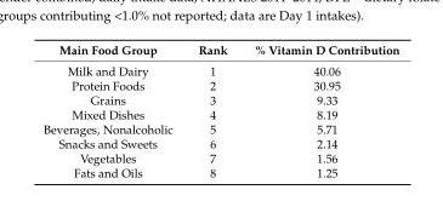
<table><thead><tr><td>Main Food Group</td><td>Rank</td><td>% Vitamin D Contribution</td></tr></thead><tbody><tr><td>Milk and Dairy</td><td>1</td><td>40.06</td></tr><tr><td>Protein Foods</td><td>2</td><td>30.95</td></tr><tr><td>Grains</td><td>3</td><td>9.33</td></tr><tr><td>Mixed Dishes</td><td>4</td><td>8.19</td></tr><tr><td>Beverages, Nonalcoholic</td><td>5</td><td>5.71</td></tr><tr><td>Snacks and Sweets</td><td>6</td><td>2.14</td></tr><tr><td>Vegetables</td><td>7</td><td>1.56</td></tr><tr><td>Fats and Oils</td><td>8</td><td>1.25</td></tr></tbody></table>